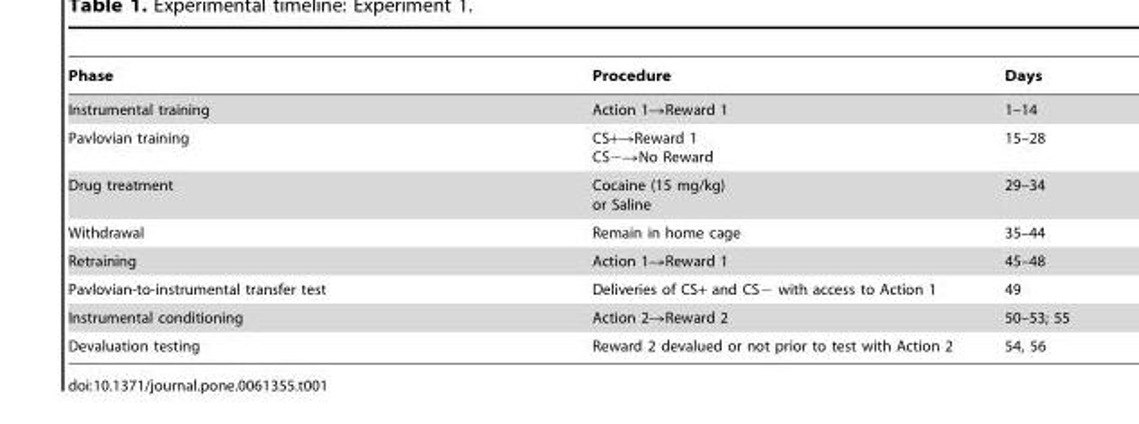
<table><thead><tr><td>Phase</td><td>Procedure</td><td>Days</td></tr></thead><tbody><tr><td>Instrumental training</td><td>Action 1→Reward 1</td><td>1–14</td></tr><tr><td>Pavlovian training</td><td>CS+→Reward 1 CS−→No Reward</td><td>15–28</td></tr><tr><td>Drug treatment</td><td>Cocaine (15 mg/kg) or Saline</td><td>29–34</td></tr><tr><td>Withdrawal</td><td>Remain in home cage</td><td>35–44</td></tr><tr><td>Retraining</td><td>Action 1→Reward 1</td><td>45–48</td></tr><tr><td>Pavlovian-to-instrumental transfer test</td><td>Deliveries of CS+ and CS− with access to Action 1</td><td>49</td></tr><tr><td>Instrumental conditioning</td><td>Action 2→Reward 2</td><td>50–53; 55</td></tr><tr><td>Devaluation testing</td><td>Reward 2 devalued or not prior to test with Action 2</td><td>54, 56</td></tr></tbody></table>